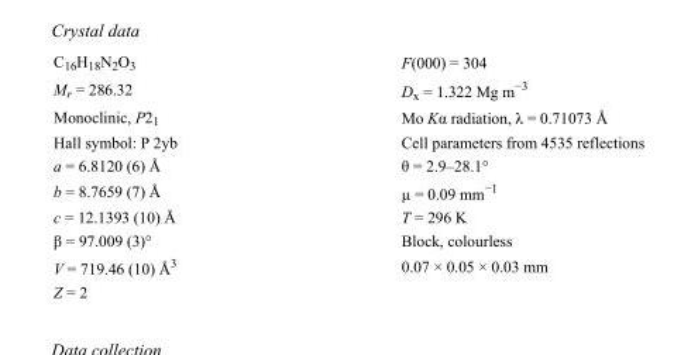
<table><tbody><tr><td>C<sub>16</sub>H<sub>18</sub>N<sub>2</sub>O<sub>3</sub></td><td>F(000) = 304</td></tr><tr><td>M<sub>r</sub> = 286.32</td><td>D<sub>x</sub> = 1.322 Mg m<sup>−3</sup></td></tr><tr><td>Monoclinic, P2<sub>1</sub></td><td>Mo Kα radiation, λ = 0.71073 Å</td></tr><tr><td>Hall symbol: P 2yb</td><td>Cell parameters from 4535 reflections</td></tr><tr><td>a = 6.8120 (6) Å</td><td>θ = 2.9–28.1°</td></tr><tr><td>b = 8.7659 (7) Å</td><td>µ = 0.09 mm<sup>−1</sup></td></tr><tr><td>c = 12.1393 (10) Å</td><td>T = 296 K</td></tr><tr><td>β = 97.009 (3)°</td><td>Block, colourless</td></tr><tr><td>V = 719.46 (10) Å<sup>3</sup></td><td>0.07 × 0.05 × 0.03 mm</td></tr><tr><td>Z = 2</td><td></td></tr></tbody></table>